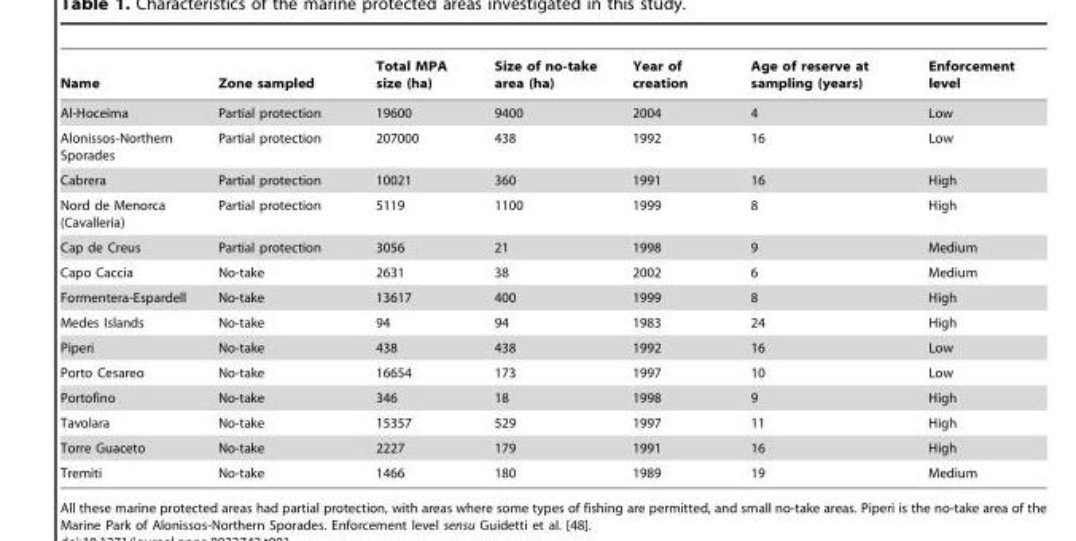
<table><thead><tr><td>Name</td><td>Zone sampled</td><td>Total MPA size (ha)</td><td>Size of no-take area (ha)</td><td>Year of creation</td><td>Age of reserve at sampling (years)</td><td>Enforcement level</td></tr></thead><tbody><tr><td>Al-Hoceima</td><td>Partial protection</td><td>19600</td><td>9400</td><td>2004</td><td>4</td><td>Low</td></tr><tr><td>Alonissos-Northern Sporades</td><td>Partial protection</td><td>207000</td><td>438</td><td>1992</td><td>16</td><td>Low</td></tr><tr><td>Cabrera</td><td>Partial protection</td><td>10021</td><td>360</td><td>1991</td><td>16</td><td>High</td></tr><tr><td>Nord de Menorca (Cavalleria)</td><td>Partial protection</td><td>5119</td><td>1100</td><td>1999</td><td>8</td><td>High</td></tr><tr><td>Cap de Creus</td><td>Partial protection</td><td>3056</td><td>21</td><td>1998</td><td>9</td><td>Medium</td></tr><tr><td>Capo Caccia</td><td>No-take</td><td>2631</td><td>38</td><td>2002</td><td>6</td><td>Medium</td></tr><tr><td>Formentera-Espardell</td><td>No-take</td><td>13617</td><td>400</td><td>1999</td><td>8</td><td>High</td></tr><tr><td>Medes Islands</td><td>No-take</td><td>94</td><td>94</td><td>1983</td><td>24</td><td>High</td></tr><tr><td>Piperi</td><td>No-take</td><td>438</td><td>438</td><td>1992</td><td>16</td><td>Low</td></tr><tr><td>Porto Cesareo</td><td>No-take</td><td>16654</td><td>173</td><td>1997</td><td>10</td><td>Low</td></tr><tr><td>Portofino</td><td>No-take</td><td>346</td><td>18</td><td>1998</td><td>9</td><td>High</td></tr><tr><td>Tavolara</td><td>No-take</td><td>15357</td><td>529</td><td>1997</td><td>11</td><td>High</td></tr><tr><td>Torre Guaceto</td><td>No-take</td><td>2227</td><td>179</td><td>1991</td><td>16</td><td>High</td></tr><tr><td>Tremiti</td><td>No-take</td><td>1466</td><td>180</td><td>1989</td><td>19</td><td>Medium</td></tr></tbody></table>